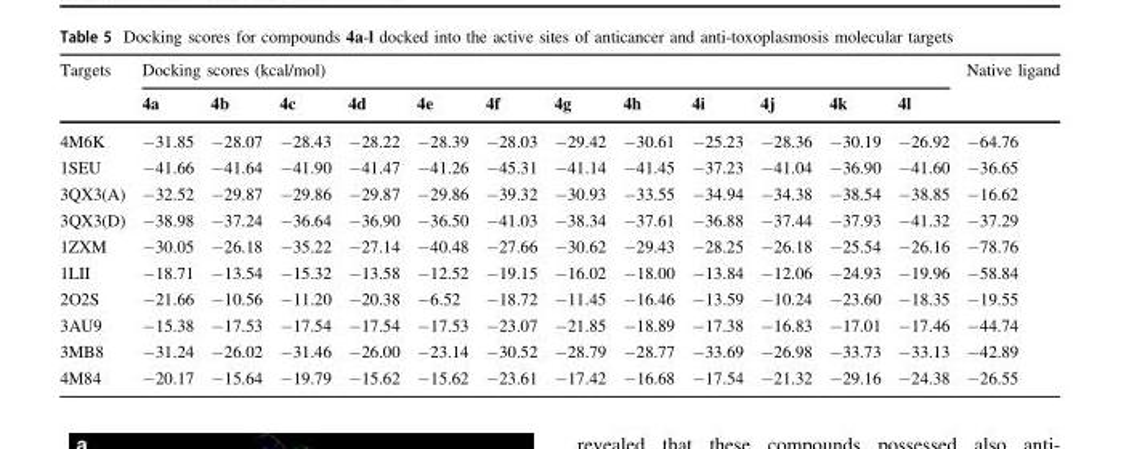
<table><thead><tr><td rowspan="2">Targets</td><td colspan="12">Docking scores (kcal/mol)</td><td rowspan="2">Native ligand</td></tr><tr><td>4a</td><td>4b</td><td>4c</td><td>4d</td><td>4e</td><td>4f</td><td>4g</td><td>4h</td><td>4i</td><td>4j</td><td>4k</td><td>4l</td></tr></thead><tbody><tr><td>4M6K</td><td>−31.85</td><td>−28.07</td><td>−28.43</td><td>−28.22</td><td>−28.39</td><td>−28.03</td><td>−29.42</td><td>−30.61</td><td>−25.23</td><td>−28.36</td><td>−30.19</td><td>−26.92</td><td>−64.76</td></tr><tr><td>1SEU</td><td>−41.66</td><td>−41.64</td><td>−41.90</td><td>−41.47</td><td>−41.26</td><td>−45.31</td><td>−41.14</td><td>−41.45</td><td>−37.23</td><td>−41.04</td><td>−36.90</td><td>−41.60</td><td>−36.65</td></tr><tr><td>3QX3(A)</td><td>−32.52</td><td>−29.87</td><td>−29.86</td><td>−29.87</td><td>−29.86</td><td>−39.32</td><td>−30.93</td><td>−33.55</td><td>−34.94</td><td>−34.38</td><td>−38.54</td><td>−38.85</td><td>−16.62</td></tr><tr><td>3QX3(D)</td><td>−38.98</td><td>−37.24</td><td>−36.64</td><td>−36.90</td><td>−36.50</td><td>−41.03</td><td>−38.34</td><td>−37.61</td><td>−36.88</td><td>−37.44</td><td>−37.93</td><td>−41.32</td><td>−37.29</td></tr><tr><td>1ZXM</td><td>−30.05</td><td>−26.18</td><td>−35.22</td><td>−27.14</td><td>−40.48</td><td>−27.66</td><td>−30.62</td><td>−29.43</td><td>−28.25</td><td>−26.18</td><td>−25.54</td><td>−26.16</td><td>−78.76</td></tr><tr><td>1LII</td><td>−18.71</td><td>−13.54</td><td>−15.32</td><td>−13.58</td><td>−12.52</td><td>−19.15</td><td>−16.02</td><td>−18.00</td><td>−13.84</td><td>−12.06</td><td>−24.93</td><td>−19.96</td><td>−58.84</td></tr><tr><td>2O2S</td><td>−21.66</td><td>−10.56</td><td>−11.20</td><td>−20.38</td><td>−6.52</td><td>−18.72</td><td>−11.45</td><td>−16.46</td><td>−13.59</td><td>−10.24</td><td>−23.60</td><td>−18.35</td><td>−19.55</td></tr><tr><td>3AU9</td><td>−15.38</td><td>−17.53</td><td>−17.54</td><td>−17.54</td><td>−17.53</td><td>−23.07</td><td>−21.85</td><td>−18.89</td><td>−17.38</td><td>−16.83</td><td>−17.01</td><td>−17.46</td><td>−44.74</td></tr><tr><td>3MB8</td><td>−31.24</td><td>−26.02</td><td>−31.46</td><td>−26.00</td><td>−23.14</td><td>−30.52</td><td>−28.79</td><td>−28.77</td><td>−33.69</td><td>−26.98</td><td>−33.73</td><td>−33.13</td><td>−42.89</td></tr><tr><td>4M84</td><td>−20.17</td><td>−15.64</td><td>−19.79</td><td>−15.62</td><td>−15.62</td><td>−23.61</td><td>−17.42</td><td>−16.68</td><td>−17.54</td><td>−21.32</td><td>−29.16</td><td>−24.38</td><td>−26.55</td></tr></tbody></table>